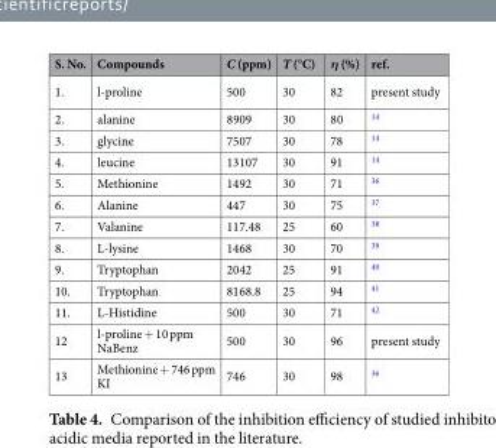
<table><thead><tr><td>S. No.</td><td>Compounds</td><td>C (ppm)</td><td>T (°C)</td><td>η (%)</td><td>ref.</td></tr></thead><tbody><tr><td>1.</td><td>l-proline</td><td>500</td><td>30</td><td>82</td><td>present study</td></tr><tr><td>2.</td><td>alanine</td><td>8909</td><td>30</td><td>80</td><td><sup>14</sup></td></tr><tr><td>3.</td><td>glycine</td><td>7507</td><td>30</td><td>78</td><td><sup>14</sup></td></tr><tr><td>4.</td><td>leucine</td><td>13107</td><td>30</td><td>91</td><td><sup>14</sup></td></tr><tr><td>5.</td><td>Methionine</td><td>1492</td><td>30</td><td>71</td><td><sup>36</sup></td></tr><tr><td>6.</td><td>Alanine</td><td>447</td><td>30</td><td>75</td><td><sup>37</sup></td></tr><tr><td>7.</td><td>Valanine</td><td>117.48</td><td>25</td><td>60</td><td><sup>38</sup></td></tr><tr><td>8.</td><td>L-lysine</td><td>1468</td><td>30</td><td>70</td><td><sup>39</sup></td></tr><tr><td>9.</td><td>Tryptophan</td><td>2042</td><td>25</td><td>91</td><td><sup>40</sup></td></tr><tr><td>10.</td><td>Tryptophan</td><td>8168.8</td><td>25</td><td>94</td><td><sup>41</sup></td></tr><tr><td>11.</td><td>L-Histidine</td><td>500</td><td>30</td><td>71</td><td><sup>42</sup></td></tr><tr><td>12</td><td>l-proline + 10 ppm NaBenz</td><td>500</td><td>30</td><td>96</td><td>present study</td></tr><tr><td>13</td><td>Methionine + 746 ppm KI</td><td>746</td><td>30</td><td>98</td><td><sup>36</sup></td></tr></tbody></table>